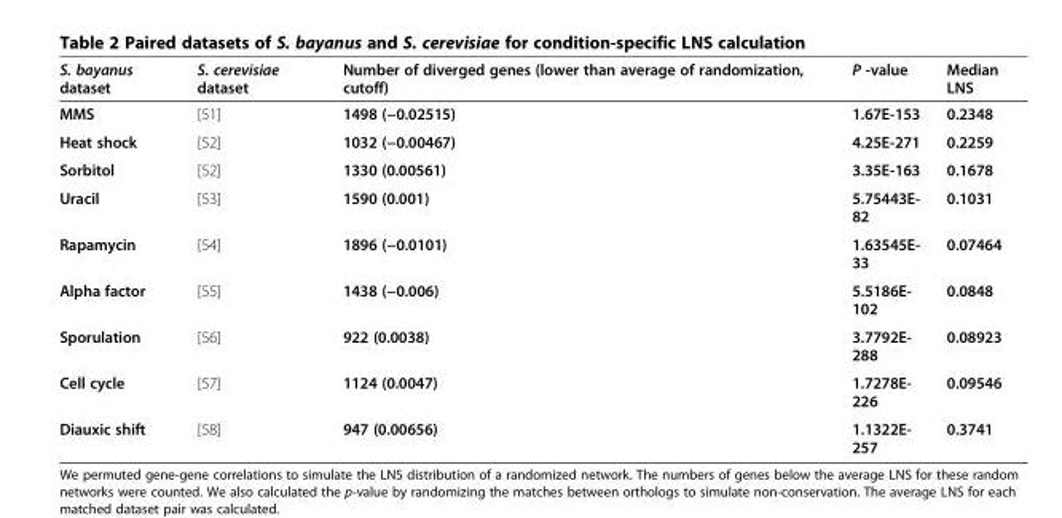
<table><thead><tr><td>S. bayanus dataset</td><td>S. cerevisiae dataset</td><td>Number of diverged genes (lower than average of randomization, cutoff)</td><td>P -value</td><td>Median LNS</td></tr></thead><tbody><tr><td>MMS</td><td>[51]</td><td>1498 (−0.02515)</td><td>1.67E-153</td><td>0.2348</td></tr><tr><td>Heat shock</td><td>[52]</td><td>1032 (−0.00467)</td><td>4.25E-271</td><td>0.2259</td></tr><tr><td>Sorbitol</td><td>[52]</td><td>1330 (0.00561)</td><td>3.35E-163</td><td>0.1678</td></tr><tr><td>Uracil</td><td>[53]</td><td>1590 (0.001)</td><td>5.75443E- 82</td><td>0.1031</td></tr><tr><td>Rapamycin</td><td>[54]</td><td>1896 (−0.0101)</td><td>1.63545E- 33</td><td>0.07464</td></tr><tr><td>Alpha factor</td><td>[55]</td><td>1438 (−0.006)</td><td>5.5186E- 102</td><td>0.0848</td></tr><tr><td>Sporulation</td><td>[56]</td><td>922 (0.0038)</td><td>3.7792E- 288</td><td>0.08923</td></tr><tr><td>Cell cycle</td><td>[57]</td><td>1124 (0.0047)</td><td>1.7278E- 226</td><td>0.09546</td></tr><tr><td>Diauxic shift</td><td>[58]</td><td>947 (0.00656)</td><td>1.1322E- 257</td><td>0.3741</td></tr></tbody></table>